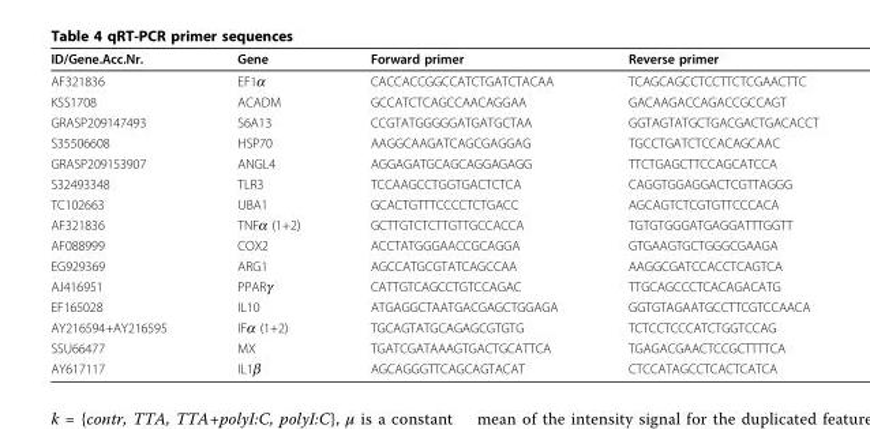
<table><thead><tr><td>ID/Gene.Acc.Nr.</td><td>Gene</td><td>Forward primer</td><td>Reverse primer</td></tr></thead><tbody><tr><td>AF321836</td><td>EF1α</td><td>CACCACCGGCCATCTGATCTACAA</td><td>TCAGCAGCCTCCTTCTCGAACTTC</td></tr><tr><td>KSS1708</td><td>ACADM</td><td>GCCATCTCAGCCAACAGGAA</td><td>GACAAGACCAGACCGCCAGT</td></tr><tr><td>GRASP209147493</td><td>S6A13</td><td>CCGTATGGGGGATGATGCTAA</td><td>GGTAGTATGCTGACGACTGACACCT</td></tr><tr><td>S35506608</td><td>HSP70</td><td>AAGGCAAGATCAGCGAGGAG</td><td>TGCCTGATCTCCACAGCAAC</td></tr><tr><td>GRASP209153907</td><td>ANGL4</td><td>AGGAGATGCAGCAGGAGAGG</td><td>TTCTGAGCTTCCAGCATCCA</td></tr><tr><td>S32493348</td><td>TLR3</td><td>TCCAAGCCTGGTGACTCTCA</td><td>CAGGTGGAGGACTCGTTAGGG</td></tr><tr><td>TC102663</td><td>UBA1</td><td>GCACTGTTTCCCCTCTGACC</td><td>AGCAGTCTCGTGTTCCCACA</td></tr><tr><td>AF321836</td><td>TNFα (1+2)</td><td>GCTTGTCTCTTGTTGCCACCA</td><td>TGTGTGGGATGAGGATTTGGTT</td></tr><tr><td>AF088999</td><td>COX2</td><td>ACCTATGGGAACCGCAGGA</td><td>GTGAAGTGCTGGGCGAAGA</td></tr><tr><td>EG929369</td><td>ARG1</td><td>AGCCATGCGTATCAGCCAA</td><td>AAGGCGATCCACCTCAGTCA</td></tr><tr><td>AJ416951</td><td>PPARγ</td><td>CATTGTCAGCCTGTCCAGAC</td><td>TTGCAGCCCTCACAGACATG</td></tr><tr><td>EF165028</td><td>IL10</td><td>ATGAGGCTAATGACGAGCTGGAGA</td><td>GGTGTAGAATGCCTTCGTCCAACA</td></tr><tr><td>AY216594+AY216595</td><td>IFα (1+2)</td><td>TGCAGTATGCAGAGCGTGTG</td><td>TCTCCTCCCATCTGGTCCAG</td></tr><tr><td>SSU66477</td><td>MX</td><td>TGATCGATAAAGTGACTGCATTCA</td><td>TGAGACGAACTCCGCTTTTCA</td></tr><tr><td>AY617117</td><td>IL1β</td><td>AGCAGGGTTCAGCAGTACAT</td><td>CTCCATAGCCTCACTCATCA</td></tr></tbody></table>